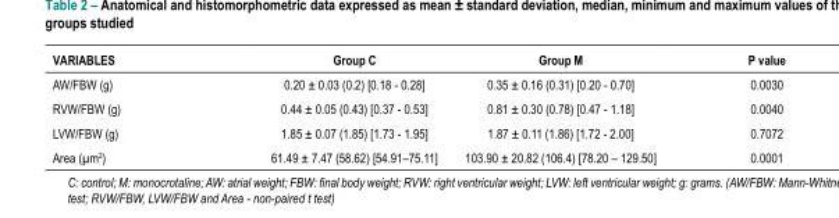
<table><thead><tr><td>VARIABLES</td><td>Group C</td><td>Group M</td><td>P value</td></tr></thead><tbody><tr><td>AW/FBW (g)</td><td>0.20 ± 0.03 (0.2) [0.18 - 0.28]</td><td>0.35 ± 0.16 (0.31) [0.20 - 0.70]</td><td>0.0030</td></tr><tr><td>RVW/FBW (g)</td><td>0.44 ± 0.05 (0.43) [0.37 - 0.53]</td><td>0.81 ± 0.30 (0.78) [0.47 - 1.18]</td><td>0.0040</td></tr><tr><td>LVW/FBW (g)</td><td>1.85 ± 0.07 (1.85) [1.73 - 1.95]</td><td>1.87 ± 0.11 (1.86) [1.72 - 2.00]</td><td>0.7072</td></tr><tr><td>Area (µm<sup>2</sup>)</td><td>61.49 ± 7.47 (58.62) [54.91–75.11]</td><td>103.90 ± 20.82 (106.4) [78.20 – 129.50]</td><td>0.0001</td></tr></tbody></table>